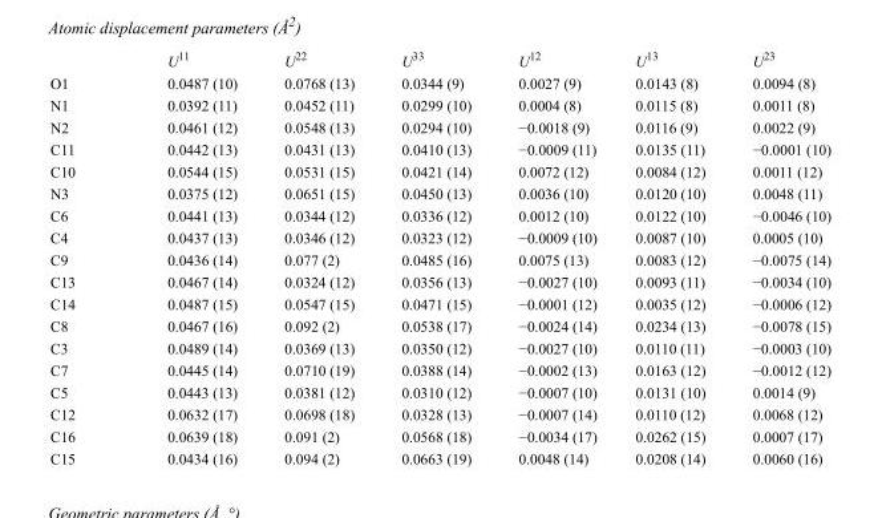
<table><thead><tr><td></td><td>U<sup>11</sup></td><td>U<sup>22</sup></td><td>U<sup>33</sup></td><td>U<sup>12</sup></td><td>U<sup>13</sup></td><td>U<sup>23</sup></td></tr></thead><tbody><tr><td>O1</td><td>0.0487 (10)</td><td>0.0768 (13)</td><td>0.0344 (9)</td><td>0.0027 (9)</td><td>0.0143 (8)</td><td>0.0094 (8)</td></tr><tr><td>N1</td><td>0.0392 (11)</td><td>0.0452 (11)</td><td>0.0299 (10)</td><td>0.0004 (8)</td><td>0.0115 (8)</td><td>0.0011 (8)</td></tr><tr><td>N2</td><td>0.0461 (12)</td><td>0.0548 (13)</td><td>0.0294 (10)</td><td>−0.0018 (9)</td><td>0.0116 (9)</td><td>0.0022 (9)</td></tr><tr><td>C11</td><td>0.0442 (13)</td><td>0.0431 (13)</td><td>0.0410 (13)</td><td>−0.0009 (11)</td><td>0.0135 (11)</td><td>−0.0001 (10)</td></tr><tr><td>C10</td><td>0.0544 (15)</td><td>0.0531 (15)</td><td>0.0421 (14)</td><td>0.0072 (12)</td><td>0.0084 (12)</td><td>0.0011 (12)</td></tr><tr><td>N3</td><td>0.0375 (12)</td><td>0.0651 (15)</td><td>0.0450 (13)</td><td>0.0036 (10)</td><td>0.0120 (10)</td><td>0.0048 (11)</td></tr><tr><td>C6</td><td>0.0441 (13)</td><td>0.0344 (12)</td><td>0.0336 (12)</td><td>0.0012 (10)</td><td>0.0122 (10)</td><td>−0.0046 (10)</td></tr><tr><td>C4</td><td>0.0437 (13)</td><td>0.0346 (12)</td><td>0.0323 (12)</td><td>−0.0009 (10)</td><td>0.0087 (10)</td><td>0.0005 (10)</td></tr><tr><td>C9</td><td>0.0436 (14)</td><td>0.077 (2)</td><td>0.0485 (16)</td><td>0.0075 (13)</td><td>0.0083 (12)</td><td>−0.0075 (14)</td></tr><tr><td>C13</td><td>0.0467 (14)</td><td>0.0324 (12)</td><td>0.0356 (13)</td><td>−0.0027 (10)</td><td>0.0093 (11)</td><td>−0.0034 (10)</td></tr><tr><td>C14</td><td>0.0487 (15)</td><td>0.0547 (15)</td><td>0.0471 (15)</td><td>−0.0001 (12)</td><td>0.0035 (12)</td><td>−0.0006 (12)</td></tr><tr><td>C8</td><td>0.0467 (16)</td><td>0.092 (2)</td><td>0.0538 (17)</td><td>−0.0024 (14)</td><td>0.0234 (13)</td><td>−0.0078 (15)</td></tr><tr><td>C3</td><td>0.0489 (14)</td><td>0.0369 (13)</td><td>0.0350 (12)</td><td>−0.0027 (10)</td><td>0.0110 (11)</td><td>−0.0003 (10)</td></tr><tr><td>C7</td><td>0.0445 (14)</td><td>0.0710 (19)</td><td>0.0388 (14)</td><td>−0.0002 (13)</td><td>0.0163 (12)</td><td>−0.0012 (12)</td></tr><tr><td>C5</td><td>0.0443 (13)</td><td>0.0381 (12)</td><td>0.0310 (12)</td><td>−0.0007 (10)</td><td>0.0131 (10)</td><td>0.0014 (9)</td></tr><tr><td>C12</td><td>0.0632 (17)</td><td>0.0698 (18)</td><td>0.0328 (13)</td><td>−0.0007 (14)</td><td>0.0110 (12)</td><td>0.0068 (12)</td></tr><tr><td>C16</td><td>0.0639 (18)</td><td>0.091 (2)</td><td>0.0568 (18)</td><td>−0.0034 (17)</td><td>0.0262 (15)</td><td>0.0007 (17)</td></tr><tr><td>C15</td><td>0.0434 (16)</td><td>0.094 (2)</td><td>0.0663 (19)</td><td>0.0048 (14)</td><td>0.0208 (14)</td><td>0.0060 (16)</td></tr></tbody></table>